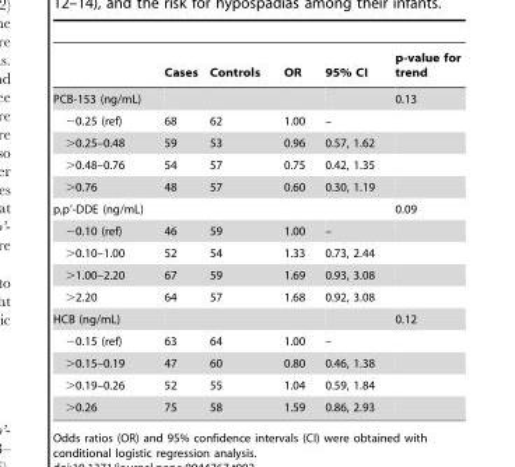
<table><thead><tr><td></td><td>Cases</td><td>Controls</td><td>OR</td><td>95% CI</td><td>p-value for trend</td></tr></thead><tbody><tr><td>PCB-153 (ng/mL)</td><td></td><td></td><td></td><td></td><td>0.13</td></tr><tr><td>−0.25 (ref)</td><td>68</td><td>62</td><td>1.00</td><td>–</td><td></td></tr><tr><td>&gt;0.25–0.48</td><td>59</td><td>53</td><td>0.96</td><td>0.57, 1.62</td><td></td></tr><tr><td>&gt;0.48–0.76</td><td>54</td><td>57</td><td>0.75</td><td>0.42, 1.35</td><td></td></tr><tr><td>&gt;0.76</td><td>48</td><td>57</td><td>0.60</td><td>0.30, 1.19</td><td></td></tr><tr><td>p,p’-DDE (ng/mL)</td><td></td><td></td><td></td><td></td><td>0.09</td></tr><tr><td>−0.10 (ref)</td><td>46</td><td>59</td><td>1.00</td><td>–</td><td></td></tr><tr><td>&gt;0.10–1.00</td><td>52</td><td>54</td><td>1.33</td><td>0.73, 2.44</td><td></td></tr><tr><td>&gt;1.00–2.20</td><td>67</td><td>59</td><td>1.69</td><td>0.93, 3.08</td><td></td></tr><tr><td>&gt;2.20</td><td>64</td><td>57</td><td>1.68</td><td>0.92, 3.08</td><td></td></tr><tr><td>HCB (ng/mL)</td><td></td><td></td><td></td><td></td><td>0.12</td></tr><tr><td>−0.15 (ref)</td><td>63</td><td>64</td><td>1.00</td><td>–</td><td></td></tr><tr><td>&gt;0.15–0.19</td><td>47</td><td>60</td><td>0.80</td><td>0.46, 1.38</td><td></td></tr><tr><td>&gt;0.19–0.26</td><td>52</td><td>55</td><td>1.04</td><td>0.59, 1.84</td><td></td></tr><tr><td>&gt;0.26</td><td>75</td><td>58</td><td>1.59</td><td>0.86, 2.93</td><td></td></tr></tbody></table>